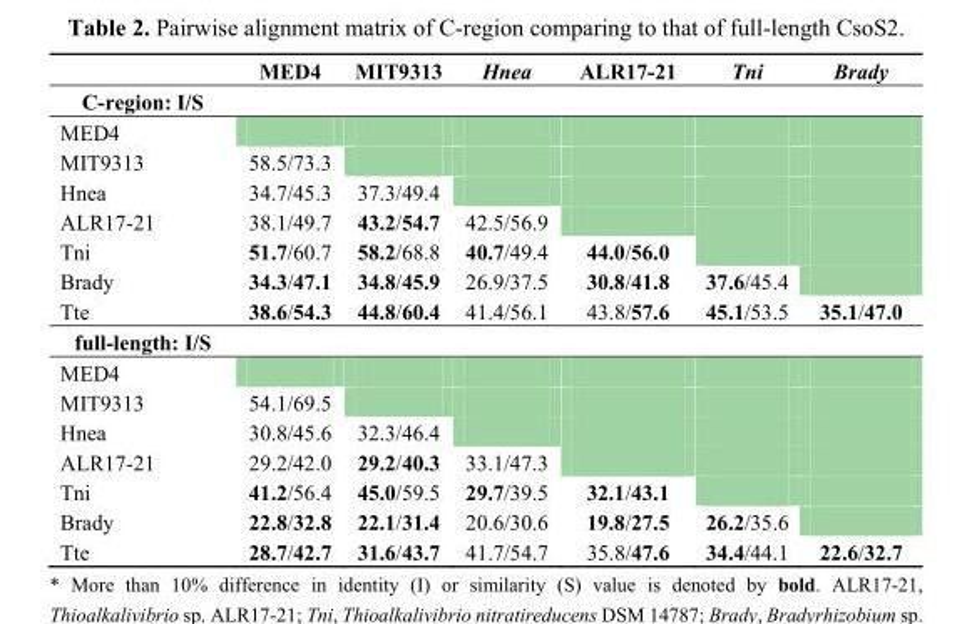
<table><thead><tr><td></td><td>MED4</td><td>MIT9313</td><td>Hnea</td><td>ALR17-21</td><td>Tni</td><td>Brady</td></tr></thead><tbody><tr><td colspan="7">C-region: I/S</td></tr><tr><td colspan="7">MED4</td></tr><tr><td>MIT9313</td><td>58.5/73.3</td><td></td><td></td><td></td><td></td><td></td></tr><tr><td>Hnea</td><td>34.7/45.3</td><td>37.3/49.4</td><td></td><td></td><td></td><td></td></tr><tr><td>ALR17-21</td><td>38.1/49.7</td><td>43.2/54.7</td><td>42.5/56.9</td><td></td><td></td><td></td></tr><tr><td>Tni</td><td>51.7/60.7</td><td>58.2/68.8</td><td>40.7/49.4</td><td>44.0/56.0</td><td></td><td></td></tr><tr><td>Brady</td><td>34.3/47.1</td><td>34.8/45.9</td><td>26.9/37.5</td><td>30.8/41.8</td><td>37.6/45.4</td><td></td></tr><tr><td>Tte</td><td>38.6/54.3</td><td>44.8/60.4</td><td>41.4/56.1</td><td>43.8/57.6</td><td>45.1/53.5</td><td>35.1/47.0</td></tr><tr><td colspan="7">full-length: I/S</td></tr><tr><td colspan="7">MED4</td></tr><tr><td>MIT9313</td><td>54.1/69.5</td><td></td><td></td><td></td><td></td><td></td></tr><tr><td>Hnea</td><td>30.8/45.6</td><td>32.3/46.4</td><td></td><td></td><td></td><td></td></tr><tr><td>ALR17-21</td><td>29.2/42.0</td><td>29.2/40.3</td><td>33.1/47.3</td><td></td><td></td><td></td></tr><tr><td>Tni</td><td>41.2/56.4</td><td>45.0/59.5</td><td>29.7/39.5</td><td>32.1/43.1</td><td></td><td></td></tr><tr><td>Brady</td><td>22.8/32.8</td><td>22.1/31.4</td><td>20.6/30.6</td><td>19.8/27.5</td><td>26.2/35.6</td><td></td></tr><tr><td>Tte</td><td>28.7/42.7</td><td>31.6/43.7</td><td>41.7/54.7</td><td>35.8/47.6</td><td>34.4/44.1</td><td>22.6/32.7</td></tr></tbody></table>